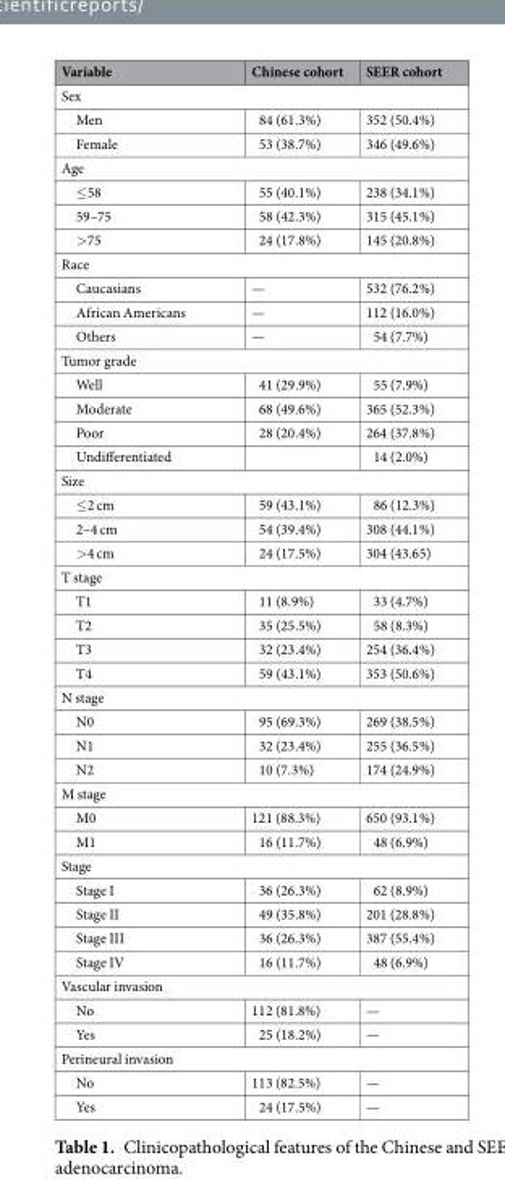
<table><thead><tr><td>Variable</td><td>Chinese cohort</td><td>SEER cohort</td></tr></thead><tbody><tr><td colspan="3">Sex</td></tr><tr><td>Men</td><td>84 (61.3%)</td><td>352 (50.4%)</td></tr><tr><td>Female</td><td>53 (38.7%)</td><td>346 (49.6%)</td></tr><tr><td colspan="3">Age</td></tr><tr><td>≤58</td><td>55 (40.1%)</td><td>238 (34.1%)</td></tr><tr><td>59–75</td><td>58 (42.3%)</td><td>315 (45.1%)</td></tr><tr><td>&gt;75</td><td>24 (17.8%)</td><td>145 (20.8%)</td></tr><tr><td colspan="3">Race</td></tr><tr><td>Caucasians</td><td>—</td><td>532 (76.2%)</td></tr><tr><td>African Americans</td><td>—</td><td>112 (16.0%)</td></tr><tr><td>Others</td><td>—</td><td>54 (7.7%)</td></tr><tr><td colspan="3">Tumor grade</td></tr><tr><td>Well</td><td>41 (29.9%)</td><td>55 (7.9%)</td></tr><tr><td>Moderate</td><td>68 (49.6%)</td><td>365 (52.3%)</td></tr><tr><td>Poor</td><td>28 (20.4%)</td><td>264 (37.8%)</td></tr><tr><td>Undifferentiated</td><td></td><td>14 (2.0%)</td></tr><tr><td colspan="3">Size</td></tr><tr><td>≤2 cm</td><td>59 (43.1%)</td><td>86 (12.3%)</td></tr><tr><td>2–4 cm</td><td>54 (39.4%)</td><td>308 (44.1%)</td></tr><tr><td>&gt;4 cm</td><td>24 (17.5%)</td><td>304 (43.65)</td></tr><tr><td colspan="3">T stage</td></tr><tr><td>T1</td><td>11 (8.9%)</td><td>33 (4.7%)</td></tr><tr><td>T2</td><td>35 (25.5%)</td><td>58 (8.3%)</td></tr><tr><td>T3</td><td>32 (23.4%)</td><td>254 (36.4%)</td></tr><tr><td>T4</td><td>59 (43.1%)</td><td>353 (50.6%)</td></tr><tr><td colspan="3">N stage</td></tr><tr><td>N0</td><td>95 (69.3%)</td><td>269 (38.5%)</td></tr><tr><td>N1</td><td>32 (23.4%)</td><td>255 (36.5%)</td></tr><tr><td>N2</td><td>10 (7.3%)</td><td>174 (24.9%)</td></tr><tr><td colspan="3">M stage</td></tr><tr><td>M0</td><td>121 (88.3%)</td><td>650 (93.1%)</td></tr><tr><td>M1</td><td>16 (11.7%)</td><td>48 (6.9%)</td></tr><tr><td colspan="3">Stage</td></tr><tr><td>Stage I</td><td>36 (26.3%)</td><td>62 (8.9%)</td></tr><tr><td>Stage II</td><td>49 (35.8%)</td><td>201 (28.8%)</td></tr><tr><td>Stage III</td><td>36 (26.3%)</td><td>387 (55.4%)</td></tr><tr><td>Stage IV</td><td>16 (11.7%)</td><td>48 (6.9%)</td></tr><tr><td colspan="3">Vascular invasion</td></tr><tr><td>No</td><td>112 (81.8%)</td><td>—</td></tr><tr><td>Yes</td><td>25 (18.2%)</td><td>—</td></tr><tr><td colspan="3">Perineural invasion</td></tr><tr><td>No</td><td>113 (82.5%)</td><td>—</td></tr><tr><td>Yes</td><td>24 (17.5%)</td><td>—</td></tr></tbody></table>